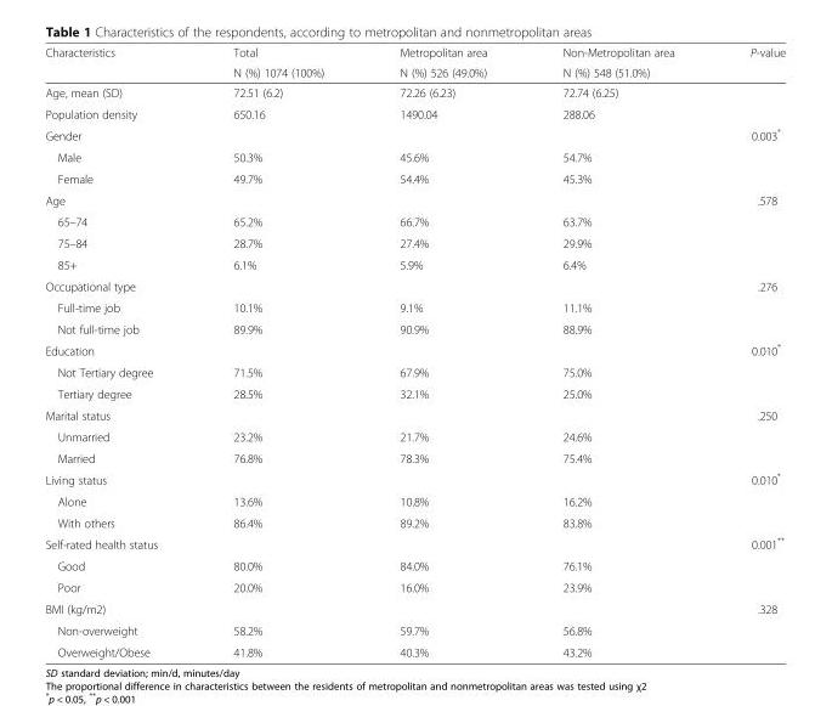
<table><thead><tr><td rowspan="2">Characteristics</td><td rowspan="2">Total N (%) 1074 (100%)</td><td rowspan="2">Metropolitan area N (%) 526 (49.0%)</td><td rowspan="2">Non-Metropolitan area N (%) 548 (51.0%)</td><td rowspan="2">P-value</td></tr><tr></tr></thead><tbody><tr><td>Age, mean (SD)</td><td>72.51 (6.2)</td><td>72.26 (6.23)</td><td>72.74 (6.25)</td><td></td></tr><tr><td>Population density</td><td>650.16</td><td>1490.04</td><td>288.06</td><td></td></tr><tr><td>Gender</td><td></td><td></td><td></td><td>0.003*</td></tr><tr><td>Male</td><td>50.3%</td><td>45.6%</td><td>54.7%</td><td></td></tr><tr><td>Female</td><td>49.7%</td><td>54.4%</td><td>45.3%</td><td></td></tr><tr><td>Age</td><td></td><td></td><td></td><td>.578</td></tr><tr><td>65–74</td><td>65.2%</td><td>66.7%</td><td>63.7%</td><td></td></tr><tr><td>75–84</td><td>28.7%</td><td>27.4%</td><td>29.9%</td><td></td></tr><tr><td>85+</td><td>6.1%</td><td>5.9%</td><td>6.4%</td><td></td></tr><tr><td>Occupational type</td><td></td><td></td><td></td><td>.276</td></tr><tr><td>Full-time job</td><td>10.1%</td><td>9.1%</td><td>11.1%</td><td></td></tr><tr><td>Not full-time job</td><td>89.9%</td><td>90.9%</td><td>88.9%</td><td></td></tr><tr><td>Education</td><td></td><td></td><td></td><td>0.010*</td></tr><tr><td>Not Tertiary degree</td><td>71.5%</td><td>67.9%</td><td>75.0%</td><td></td></tr><tr><td>Tertiary degree</td><td>28.5%</td><td>32.1%</td><td>25.0%</td><td></td></tr><tr><td>Marital status</td><td></td><td></td><td></td><td>.250</td></tr><tr><td>Unmarried</td><td>23.2%</td><td>21.7%</td><td>24.6%</td><td></td></tr><tr><td>Married</td><td>76.8%</td><td>78.3%</td><td>75.4%</td><td></td></tr><tr><td>Living status</td><td></td><td></td><td></td><td>0.010*</td></tr><tr><td>Alone</td><td>13.6%</td><td>10.8%</td><td>16.2%</td><td></td></tr><tr><td>With others</td><td>86.4%</td><td>89.2%</td><td>83.8%</td><td></td></tr><tr><td>Self-rated health status</td><td></td><td></td><td></td><td>0.001**</td></tr><tr><td>Good</td><td>80.0%</td><td>84.0%</td><td>76.1%</td><td></td></tr><tr><td>Poor</td><td>20.0%</td><td>16.0%</td><td>23.9%</td><td></td></tr><tr><td>BMI (kg/m2)</td><td></td><td></td><td></td><td>.328</td></tr><tr><td>Non-overweight</td><td>58.2%</td><td>59.7%</td><td>56.8%</td><td></td></tr><tr><td>Overweight/Obese</td><td>41.8%</td><td>40.3%</td><td>43.2%</td><td></td></tr></tbody></table>